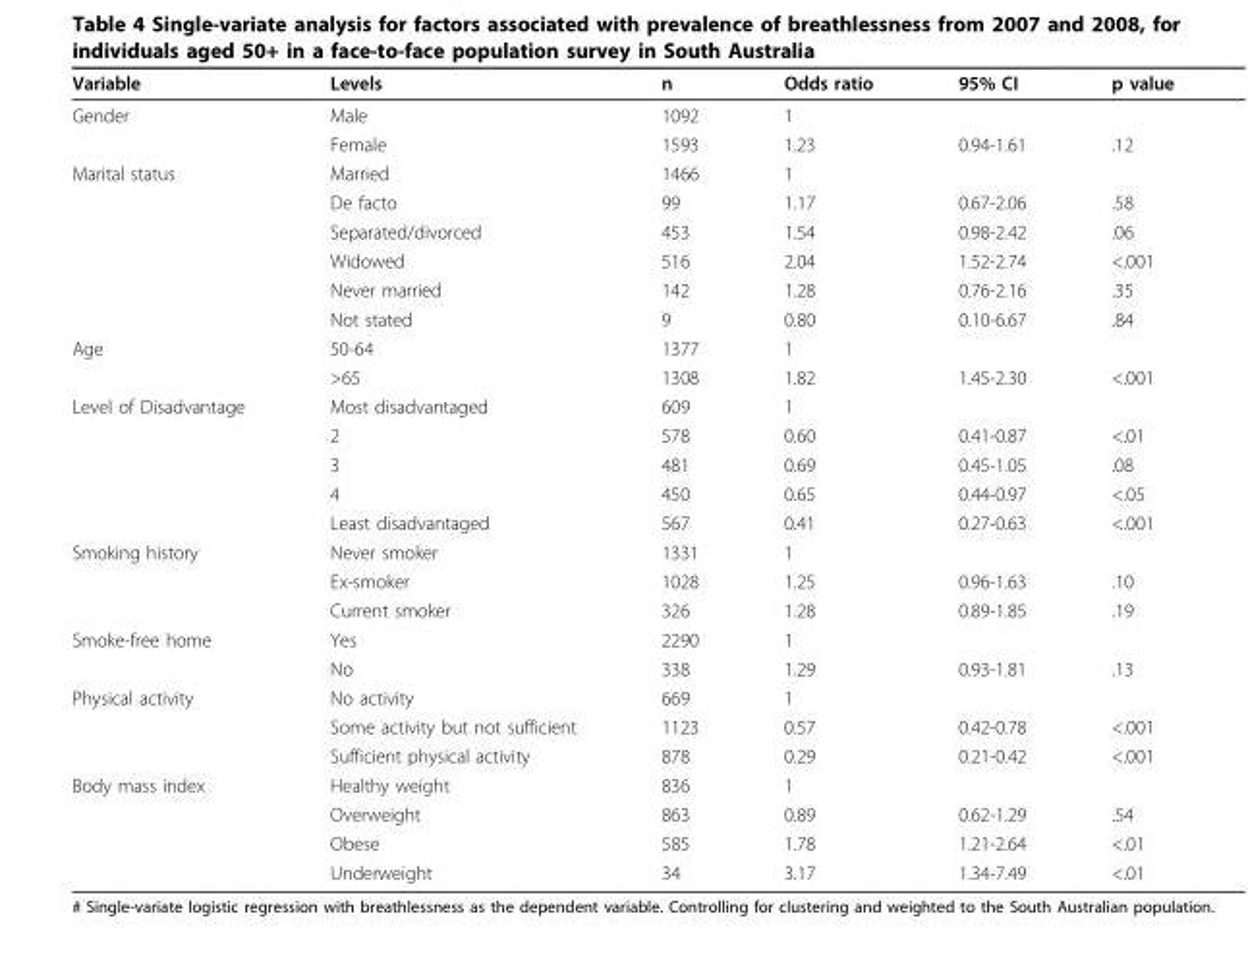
<table><thead><tr><td>Variable</td><td>Levels</td><td>n</td><td>Odds ratio</td><td>95% CI</td><td>p value</td></tr></thead><tbody><tr><td rowspan="2">Gender</td><td>Male</td><td>1092</td><td>1</td><td></td><td></td></tr><tr><td>Female</td><td>1593</td><td>1.23</td><td>0.94-1.61</td><td>.12</td></tr><tr><td rowspan="6">Marital status</td><td>Married</td><td>1466</td><td>1</td><td></td><td></td></tr><tr><td>De facto</td><td>99</td><td>1.17</td><td>0.67-2.06</td><td>.58</td></tr><tr><td>Separated/divorced</td><td>453</td><td>1.54</td><td>0.98-2.42</td><td>.06</td></tr><tr><td>Widowed</td><td>516</td><td>2.04</td><td>1.52-2.74</td><td>&lt;.001</td></tr><tr><td>Never married</td><td>142</td><td>1.28</td><td>0.76-2.16</td><td>.35</td></tr><tr><td>Not stated</td><td>9</td><td>0.80</td><td>0.10-6.67</td><td>.84</td></tr><tr><td rowspan="2">Age</td><td>50-64</td><td>1377</td><td>1</td><td></td><td></td></tr><tr><td>&gt;65</td><td>1308</td><td>1.82</td><td>1.45-2.30</td><td>&lt;.001</td></tr><tr><td rowspan="5">Level of Disadvantage</td><td>Most disadvantaged</td><td>609</td><td>1</td><td></td><td></td></tr><tr><td>2</td><td>578</td><td>0.60</td><td>0.41-0.87</td><td>&lt;.01</td></tr><tr><td>3</td><td>481</td><td>0.69</td><td>0.45-1.05</td><td>.08</td></tr><tr><td>4</td><td>450</td><td>0.65</td><td>0.44-0.97</td><td>&lt;.05</td></tr><tr><td>Least disadvantaged</td><td>567</td><td>0.41</td><td>0.27-0.63</td><td>&lt;.001</td></tr><tr><td rowspan="3">Smoking history</td><td>Never smoker</td><td>1331</td><td>1</td><td></td><td></td></tr><tr><td>Ex-smoker</td><td>1028</td><td>1.25</td><td>0.96-1.63</td><td>.10</td></tr><tr><td>Current smoker</td><td>326</td><td>1.28</td><td>0.89-1.85</td><td>.19</td></tr><tr><td rowspan="2">Smoke-free home</td><td>Yes</td><td>2290</td><td>1</td><td></td><td></td></tr><tr><td>No</td><td>338</td><td>1.29</td><td>0.93-1.81</td><td>.13</td></tr><tr><td rowspan="3">Physical activity</td><td>No activity</td><td>669</td><td>1</td><td></td><td></td></tr><tr><td>Some activity but not sufficient</td><td>1123</td><td>0.57</td><td>0.42-0.78</td><td>&lt;.001</td></tr><tr><td>Sufficient physical activity</td><td>878</td><td>0.29</td><td>0.21-0.42</td><td>&lt;.001</td></tr><tr><td rowspan="4">Body mass index</td><td>Healthy weight</td><td>836</td><td>1</td><td></td><td></td></tr><tr><td>Overweight</td><td>863</td><td>0.89</td><td>0.62-1.29</td><td>.54</td></tr><tr><td>Obese</td><td>585</td><td>1.78</td><td>1.21-2.64</td><td>&lt;.01</td></tr><tr><td>Underweight</td><td>34</td><td>3.17</td><td>1.34-7.49</td><td>&lt;.01</td></tr></tbody></table>